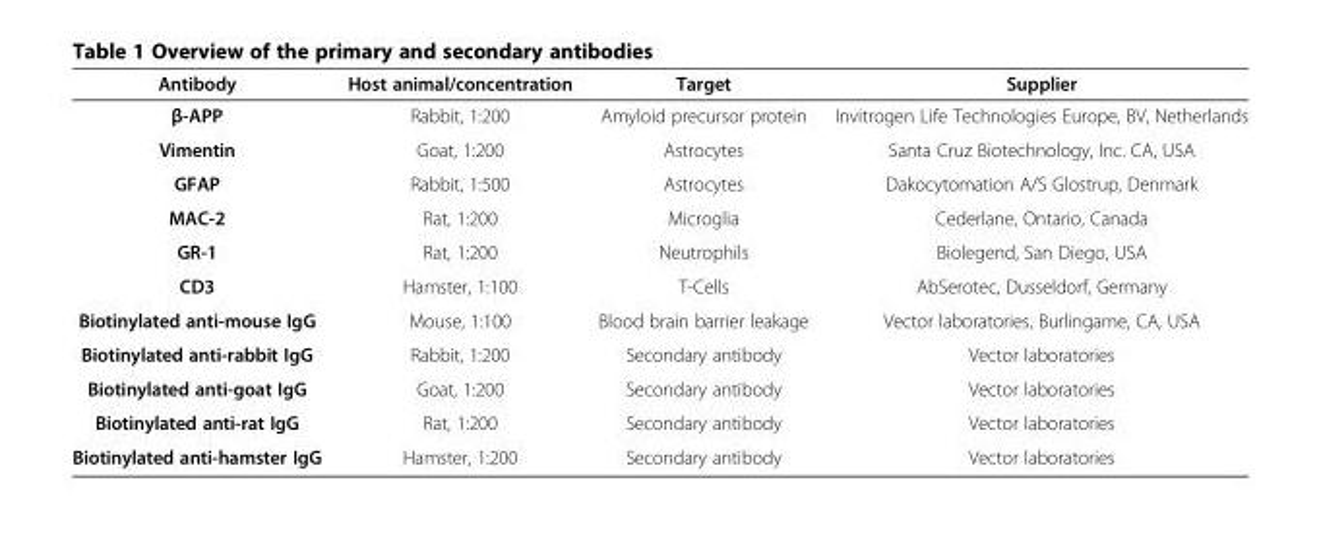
<table><thead><tr><td>Antibody</td><td>Host animal/concentration</td><td>Target</td><td>Supplier</td></tr></thead><tbody><tr><td>β-APP</td><td>Rabbit, 1:200</td><td>Amyloid precursor protein</td><td>Invitrogen Life Technologies Europe, BV, Netherlands</td></tr><tr><td>Vimentin</td><td>Goat, 1:200</td><td>Astrocytes</td><td>Santa Cruz Biotechnology, Inc. CA, USA</td></tr><tr><td>GFAP</td><td>Rabbit, 1:500</td><td>Astrocytes</td><td>Dakocytomation A/S Glostrup, Denmark</td></tr><tr><td>MAC-2</td><td>Rat, 1:200</td><td>Microglia</td><td>Cederlane, Ontario, Canada</td></tr><tr><td>GR-1</td><td>Rat, 1:200</td><td>Neutrophils</td><td>Biolegend, San Diego, USA</td></tr><tr><td>CD3</td><td>Hamster, 1:100</td><td>T-Cells</td><td>AbSerotec, Dusseldorf, Germany</td></tr><tr><td>Biotinylated anti-mouse IgG</td><td>Mouse, 1:100</td><td>Blood brain barrier leakage</td><td>Vector laboratories, Burlingame, CA, USA</td></tr><tr><td>Biotinylated anti-rabbit IgG</td><td>Rabbit, 1:200</td><td>Secondary antibody</td><td>Vector laboratories</td></tr><tr><td>Biotinylated anti-goat IgG</td><td>Goat, 1:200</td><td>Secondary antibody</td><td>Vector laboratories</td></tr><tr><td>Biotinylated anti-rat IgG</td><td>Rat, 1:200</td><td>Secondary antibody</td><td>Vector laboratories</td></tr><tr><td>Biotinylated anti-hamster IgG</td><td>Hamster, 1:200</td><td>Secondary antibody</td><td>Vector laboratories</td></tr></tbody></table>